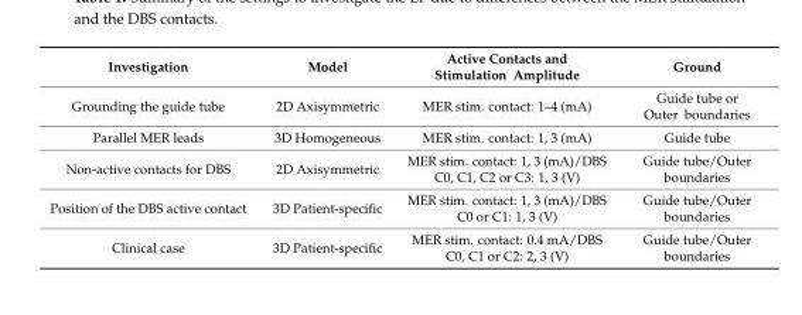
<table><thead><tr><td>Investigation</td><td>Model</td><td>Active Contacts and Stimulation Amplitude</td><td>Ground</td></tr></thead><tbody><tr><td>Grounding the guide tube</td><td>2D Axisymmetric</td><td>MER stim. contact: 1–4 (mA)</td><td>Guide tube or Outer boundaries</td></tr><tr><td>Parallel MER leads</td><td>3D Homogeneous</td><td>MER stim. contact: 1, 3 (mA)</td><td>Guide tube</td></tr><tr><td>Non-active contacts for DBS</td><td>2D Axisymmetric</td><td>MER stim. contact: 1, 3 (mA)/DBS C0, C1, C2 or C3: 1, 3 (V)</td><td>Guide tube/Outer boundaries</td></tr><tr><td>Position of the DBS active contact</td><td>3D Patient-specific</td><td>MER stim. contact: 1, 3 (mA)/DBS C0 or C1: 1, 3 (V)</td><td>Guide tube/Outer boundaries</td></tr><tr><td>Clinical case</td><td>3D Patient-specific</td><td>MER stim. contact: 0.4 mA/DBS C0, C1 or C2: 2, 3 (V)</td><td>Guide tube/Outer boundaries</td></tr></tbody></table>